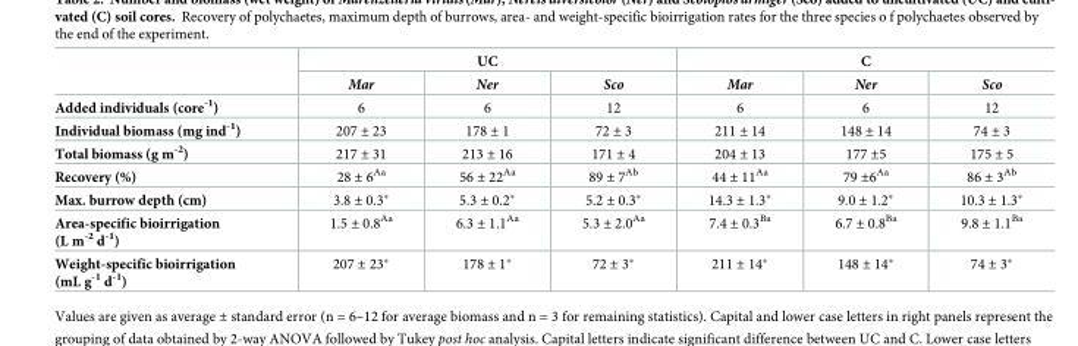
<table><thead><tr><td rowspan="2"></td><td colspan="3">UC</td><td colspan="3">C</td></tr><tr><td>Mar</td><td>Ner</td><td>Sco</td><td>Mar</td><td>Ner</td><td>Sco</td></tr></thead><tbody><tr><td>Added individuals (core<sup>-1</sup>)</td><td>6</td><td>6</td><td>12</td><td>6</td><td>6</td><td>12</td></tr><tr><td>Individual biomass (mg ind<sup>-1</sup>)</td><td>207 ± 23</td><td>178 ± 1</td><td>72 ± 3</td><td>211 ± 14</td><td>148 ± 14</td><td>74 ± 3</td></tr><tr><td>Total biomass (g m<sup>-2</sup>)</td><td>217 ± 31</td><td>213 ± 16</td><td>171 ± 4</td><td>204 ± 13</td><td>177 ±5</td><td>175 ± 5</td></tr><tr><td>Recovery (%)</td><td>28 ± 6<sup>Aa</sup></td><td>56 ± 22<sup>Aa</sup></td><td>89 ± 7<sup>Ab</sup></td><td>44 ± 11<sup>Aa</sup></td><td>79 ±6<sup>Aa</sup></td><td>86 ± 3<sup>Ab</sup></td></tr><tr><td>Max. burrow depth (cm)</td><td>3.8 ± 0.3*</td><td>5.3 ± 0.2*</td><td>5.2 ± 0.3*</td><td>14.3 ± 1.3*</td><td>9.0 ± 1.2*</td><td>10.3 ± 1.3*</td></tr><tr><td>Area-specific bioirrigation (L m<sup>-2</sup> d<sup>-1</sup>)</td><td>1.5 ± 0.8<sup>Aa</sup></td><td>6.3 ± 1.1<sup>Aa</sup></td><td>5.3 ± 2.0<sup>Aa</sup></td><td>7.4 ± 0.3<sup>Ba</sup></td><td>6.7 ± 0.8<sup>Ba</sup></td><td>9.8 ± 1.1<sup>Ba</sup></td></tr><tr><td>Weight-specific bioirrigation (mL g<sup>-1</sup> d<sup>-1</sup>)</td><td>207 ± 23*</td><td>178 ± 1*</td><td>72 ± 3*</td><td>211 ± 14*</td><td>148 ± 14*</td><td>74 ± 3*</td></tr></tbody></table>